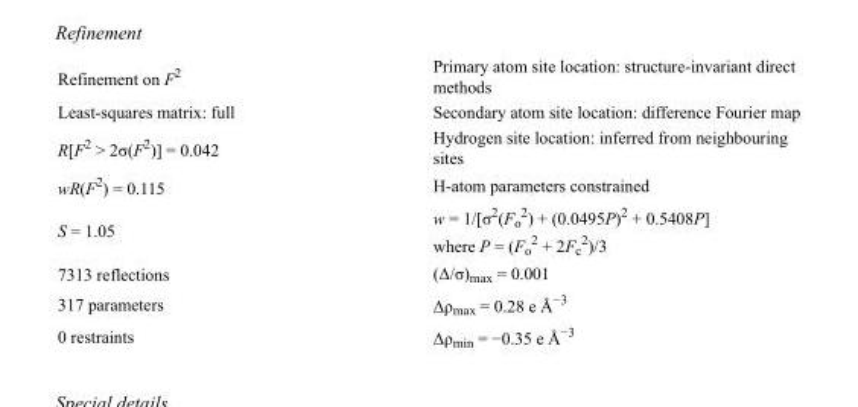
<table><tbody><tr><td>Refinement on F<sup>2</sup></td><td>Primary atom site location: structure-invariant direct methods</td></tr><tr><td>Least-squares matrix: full</td><td>Secondary atom site location: difference Fourier map</td></tr><tr><td>R[F<sup>2</sup> &gt; 2σ(F<sup>2</sup>)] = 0.042</td><td>Hydrogen site location: inferred from neighbouring sites</td></tr><tr><td>wR(F<sup>2</sup>) = 0.115</td><td>H-atom parameters constrained</td></tr><tr><td>S = 1.05</td><td>w = 1/[σ<sup>2</sup>(F<sub>o</sub> <sup>2</sup>) + (0.0495P)<sup>2</sup> + 0.5408P] where P = (F<sub>o</sub> <sup>2</sup> + 2F<sub>c</sub> <sup>2</sup>)/3</td></tr><tr><td>7313 reflections</td><td>(Δ/σ)<sub>max</sub> = 0.001</td></tr><tr><td>317 parameters</td><td>Δρ<sub>max</sub> = 0.28 e Å<sup>−3</sup></td></tr><tr><td>0 restraints</td><td>Δρ<sub>min</sub> = −0.35 e Å<sup>−3</sup></td></tr></tbody></table>